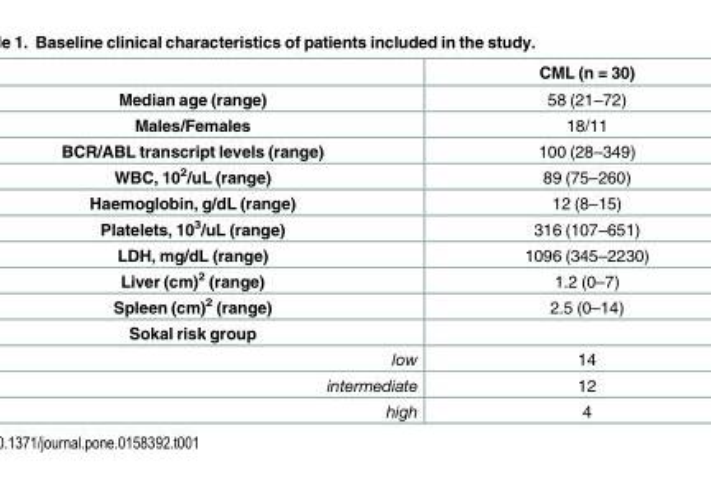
<table><thead><tr><td></td><td>CML (n = 30)</td></tr></thead><tbody><tr><td>Median age (range)</td><td>58 (21–72)</td></tr><tr><td>Males/Females</td><td>18/11</td></tr><tr><td>BCR/ABL transcript levels (range)</td><td>100 (28–349)</td></tr><tr><td>WBC, 10<sup>2</sup>/uL (range)</td><td>89 (75–260)</td></tr><tr><td>Haemoglobin, g/dL (range)</td><td>12 (8–15)</td></tr><tr><td>Platelets, 10<sup>3</sup>/uL (range)</td><td>316 (107–651)</td></tr><tr><td>LDH, mg/dL (range)</td><td>1096 (345–2230)</td></tr><tr><td>Liver (cm)<sup>2</sup> (range)</td><td>1.2 (0–7)</td></tr><tr><td>Spleen (cm)<sup>2</sup> (range)</td><td>2.5 (0–14)</td></tr><tr><td colspan="2">Sokal risk group</td></tr><tr><td>low</td><td>14</td></tr><tr><td>intermediate</td><td>12</td></tr><tr><td>high</td><td>4</td></tr></tbody></table>